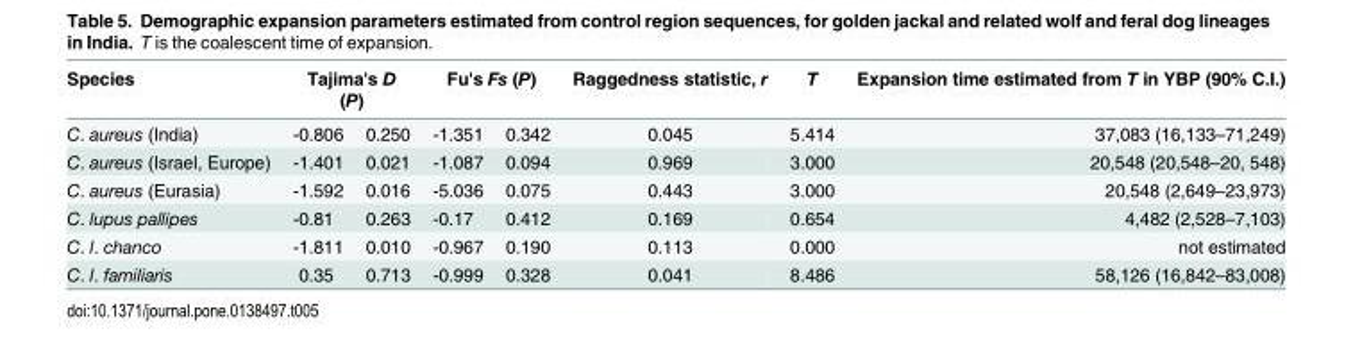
<table><thead><tr><td rowspan="2">Species C. aureus (India)</td><td colspan="2">Tajima&#x27;s D (P)</td><td colspan="2">Fu&#x27;s Fs (P)</td><td rowspan="2">Raggedness statistic, r 0.045</td><td rowspan="2">T 5.414</td><td rowspan="2">Expansion time estimated from T in YBP (90% C.I.) 37,083 (16,133–71,249)</td></tr><tr><td>-0.806</td><td>0.250</td><td>-1.351</td><td>0.342</td></tr></thead><tbody><tr><td>C. aureus (Israel, Europe)</td><td>-1.401</td><td>0.021</td><td>-1.087</td><td>0.094</td><td>0.969</td><td>3.000</td><td>20,548 (20,548–20, 548)</td></tr><tr><td>C. aureus (Eurasia)</td><td>-1.592</td><td>0.016</td><td>-5.036</td><td>0.075</td><td>0.443</td><td>3.000</td><td>20,548 (2,649–23,973)</td></tr><tr><td>C. lupus pallipes</td><td>-0.81</td><td>0.263</td><td>-0.17</td><td>0.412</td><td>0.169</td><td>0.654</td><td>4,482 (2,528–7,103)</td></tr><tr><td>C. l. chanco</td><td>-1.811</td><td>0.010</td><td>-0.967</td><td>0.190</td><td>0.113</td><td>0.000</td><td>not estimated</td></tr><tr><td>C. l. familiaris</td><td>0.35</td><td>0.713</td><td>-0.999</td><td>0.328</td><td>0.041</td><td>8.486</td><td>58,126 (16,842–83,008)</td></tr></tbody></table>